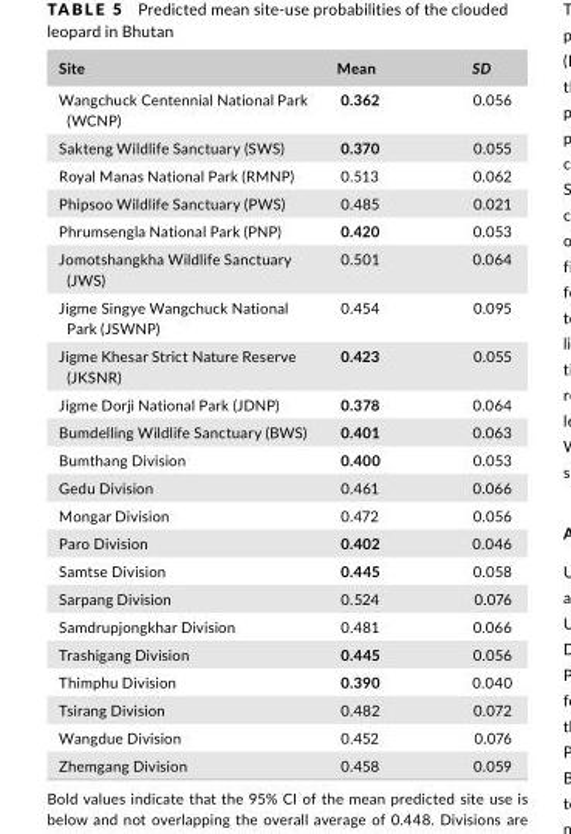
<table><thead><tr><td>Site</td><td>Mean</td><td>SD</td></tr></thead><tbody><tr><td>Wangchuck Centennial National Park (WCNP)</td><td>0.362</td><td>0.056</td></tr><tr><td>Sakteng Wildlife Sanctuary (SWS)</td><td>0.370</td><td>0.055</td></tr><tr><td>Royal Manas National Park (RMNP)</td><td>0.513</td><td>0.062</td></tr><tr><td>Phipsoo Wildlife Sanctuary (PWS)</td><td>0.485</td><td>0.021</td></tr><tr><td>Phrumsengla National Park (PNP)</td><td>0.420</td><td>0.053</td></tr><tr><td>Jomotshangkha Wildlife Sanctuary (JWS)</td><td>0.501</td><td>0.064</td></tr><tr><td>Jigme Singye Wangchuck National Park (JSWNP)</td><td>0.454</td><td>0.095</td></tr><tr><td>Jigme Khesar Strict Nature Reserve (JKSNR)</td><td>0.423</td><td>0.055</td></tr><tr><td>Jigme Dorji National Park (JDNP)</td><td>0.378</td><td>0.064</td></tr><tr><td>Bumdelling Wildlife Sanctuary (BWS)</td><td>0.401</td><td>0.063</td></tr><tr><td>Bumthang Division</td><td>0.400</td><td>0.053</td></tr><tr><td>Gedu Division</td><td>0.461</td><td>0.066</td></tr><tr><td>Mongar Division</td><td>0.472</td><td>0.056</td></tr><tr><td>Paro Division</td><td>0.402</td><td>0.046</td></tr><tr><td>Samtse Division</td><td>0.445</td><td>0.058</td></tr><tr><td>Sarpang Division</td><td>0.524</td><td>0.076</td></tr><tr><td>Samdrupjongkhar Division</td><td>0.481</td><td>0.066</td></tr><tr><td>Trashigang Division</td><td>0.445</td><td>0.056</td></tr><tr><td>Thimphu Division</td><td>0.390</td><td>0.040</td></tr><tr><td>Tsirang Division</td><td>0.482</td><td>0.072</td></tr><tr><td>Wangdue Division</td><td>0.452</td><td>0.076</td></tr><tr><td>Zhemgang Division</td><td>0.458</td><td>0.059</td></tr></tbody></table>